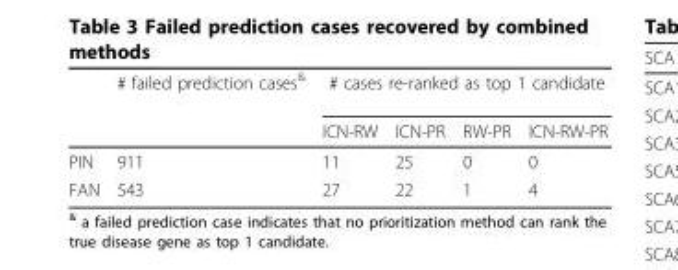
<table><thead><tr><td rowspan="2"></td><td rowspan="2"># failed prediction cases<sup>&amp;</sup></td><td colspan="4"># cases re-ranked as top 1 candidate</td></tr><tr><td>ICN-RW</td><td>ICN-PR</td><td>RW-PR</td><td>ICN-RW-PR</td></tr></thead><tbody><tr><td>PIN</td><td>911</td><td>11</td><td>25</td><td>0</td><td>0</td></tr><tr><td>FAN</td><td>543</td><td>27</td><td>22</td><td>1</td><td>4</td></tr></tbody></table>